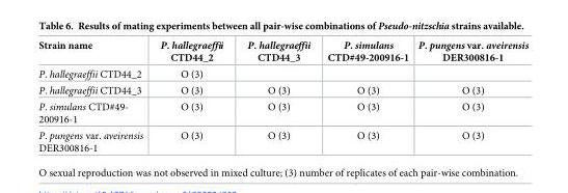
<table><thead><tr><td>Strain name</td><td>P. hallegraeffii CTD44_2</td><td>P. hallegraeffii CTD44_3</td><td>P. simulans CTD#49-200916-1</td><td>P. pungens var. aveirensis DER300816-1</td></tr></thead><tbody><tr><td>P. hallegraeffii CTD44_2</td><td>O (3)</td><td></td><td></td><td></td></tr><tr><td>P. hallegraeffii CTD44_3</td><td>O (3)</td><td>O (3)</td><td>O (3)</td><td>O (3)</td></tr><tr><td>P. simulans CTD#49- 200916-1</td><td>O (3)</td><td>O (3)</td><td>O (3)</td><td>O (3)</td></tr><tr><td>P. pungens var. aveirensis DER300816-1</td><td>O (3)</td><td>O (3)</td><td>O (3)</td><td>O (3)</td></tr></tbody></table>